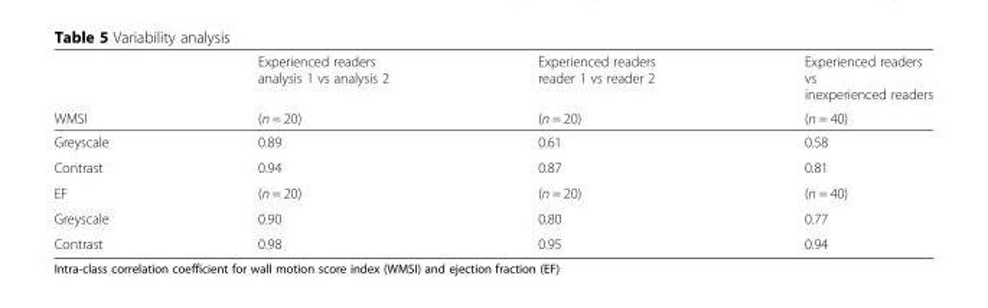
<table><thead><tr><td rowspan="2">WMSI</td><td rowspan="2">Experienced readers analysis 1 vs analysis 2 (n = 20)</td><td rowspan="2">Experienced readers reader 1 vs reader 2 (n = 20)</td><td rowspan="2">Experienced readers vs inexperienced readers (n = 40)</td></tr><tr></tr></thead><tbody><tr><td>Greyscale</td><td>0.89</td><td>0.61</td><td>0.58</td></tr><tr><td>Contrast</td><td>0.94</td><td>0.87</td><td>0.81</td></tr><tr><td>EF</td><td>(n = 20)</td><td>(n = 20)</td><td>(n = 40)</td></tr><tr><td>Greyscale</td><td>0.90</td><td>0.80</td><td>0.77</td></tr><tr><td>Contrast</td><td>0.98</td><td>0.95</td><td>0.94</td></tr></tbody></table>